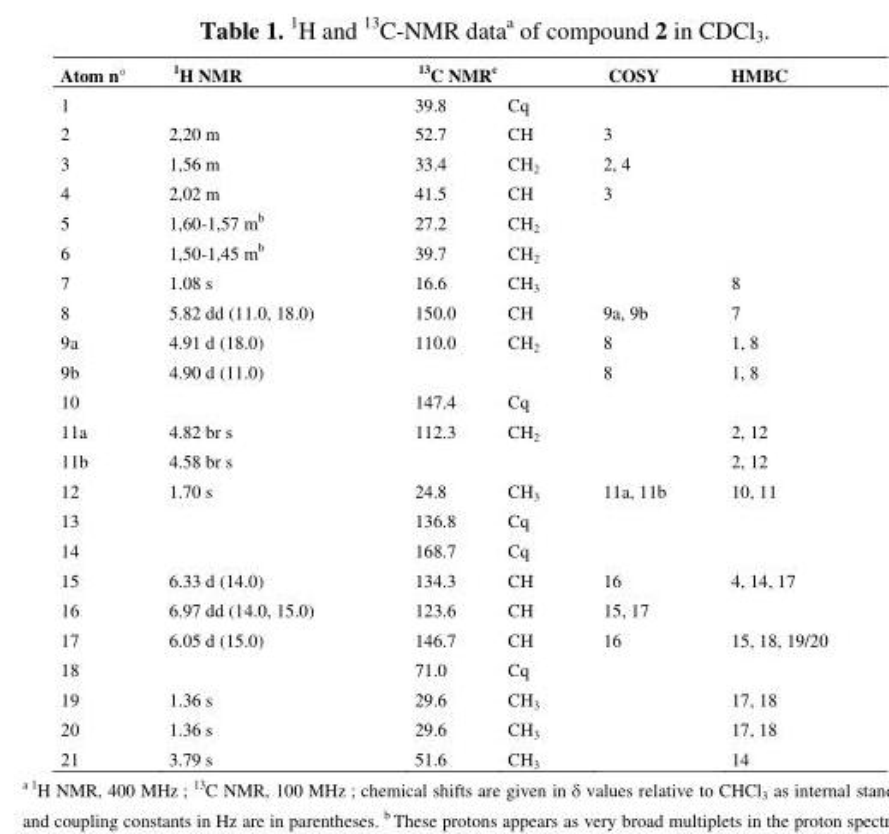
<table><thead><tr><td rowspan="2">Atom n° 1</td><td rowspan="2"><sup>1</sup>H NMR</td><td colspan="2"><sup>13</sup>C NMR<sup>c</sup></td><td rowspan="2">COSY</td><td rowspan="2">HMBC</td></tr><tr><td>39.8</td><td>Cq</td></tr></thead><tbody><tr><td>2</td><td>2,20 m</td><td>52.7</td><td>CH</td><td>3</td><td></td></tr><tr><td>3</td><td>1,56 m</td><td>33.4</td><td>CH<sub>2</sub></td><td>2, 4</td><td></td></tr><tr><td>4</td><td>2,02 m</td><td>41.5</td><td>CH</td><td>3</td><td></td></tr><tr><td>5</td><td>1,60-1,57 m<sup>b</sup></td><td>27.2</td><td>CH<sub>2</sub></td><td></td><td></td></tr><tr><td>6</td><td>1,50-1,45 m<sup>b</sup></td><td>39.7</td><td>CH<sub>2</sub></td><td></td><td></td></tr><tr><td>7</td><td>1.08 s</td><td>16.6</td><td>CH<sub>3</sub></td><td></td><td>8</td></tr><tr><td>8</td><td>5.82 dd (11.0, 18.0)</td><td>150.0</td><td>CH</td><td>9a, 9b</td><td>7</td></tr><tr><td>9a</td><td>4.91 d (18.0)</td><td>110.0</td><td>CH<sub>2</sub></td><td>8</td><td>1, 8</td></tr><tr><td>9b</td><td>4.90 d (11.0)</td><td></td><td></td><td>8</td><td>1, 8</td></tr><tr><td>10</td><td></td><td>147.4</td><td>Cq</td><td></td><td></td></tr><tr><td>11a</td><td>4.82 br s</td><td>112.3</td><td>CH<sub>2</sub></td><td></td><td>2, 12</td></tr><tr><td>11b</td><td>4.58 br s</td><td></td><td></td><td></td><td>2, 12</td></tr><tr><td>12</td><td>1.70 s</td><td>24.8</td><td>CH<sub>3</sub></td><td>11a, 11b</td><td>10, 11</td></tr><tr><td>13</td><td></td><td>136.8</td><td>Cq</td><td></td><td></td></tr><tr><td>14</td><td></td><td>168.7</td><td>Cq</td><td></td><td></td></tr><tr><td>15</td><td>6.33 d (14.0)</td><td>134.3</td><td>CH</td><td>16</td><td>4, 14, 17</td></tr><tr><td>16</td><td>6.97 dd (14.0, 15.0)</td><td>123.6</td><td>CH</td><td>15, 17</td><td></td></tr><tr><td>17</td><td>6.05 d (15.0)</td><td>146.7</td><td>CH</td><td>16</td><td>15, 18, 19/20</td></tr><tr><td>18</td><td></td><td>71.0</td><td>Cq</td><td></td><td></td></tr><tr><td>19</td><td>1.36 s</td><td>29.6</td><td>CH<sub>3</sub></td><td></td><td>17, 18</td></tr><tr><td>20</td><td>1.36 s</td><td>29.6</td><td>CH<sub>3</sub></td><td></td><td>17, 18</td></tr><tr><td>21</td><td>3.79 s</td><td>51.6</td><td>CH<sub>3</sub></td><td></td><td>14</td></tr></tbody></table>